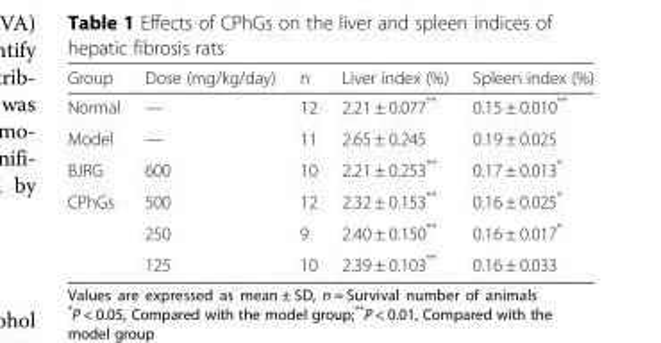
<table><thead><tr><td>Group</td><td>Dose (mg/kg/day)</td><td>n</td><td>Liver index (%)</td><td>Spleen index (%)</td></tr></thead><tbody><tr><td>Normal</td><td>—</td><td>12</td><td>2.21 ± 0.077**</td><td>0.15 ± 0.010**</td></tr><tr><td>Model</td><td>—</td><td>11</td><td>2.65 ± 0.245</td><td>0.19 ± 0.025</td></tr><tr><td>BJRG</td><td>600</td><td>10</td><td>2.21 ± 0.253**</td><td>0.17 ± 0.013*</td></tr><tr><td rowspan="3">CPhGs</td><td>500</td><td>12</td><td>2.32 ± 0.153**</td><td>0.16 ± 0.025*</td></tr><tr><td>250</td><td>9</td><td>2.40 ± 0.150**</td><td>0.16 ± 0.017*</td></tr><tr><td>125</td><td>10</td><td>2.39 ± 0.103**</td><td>0.16 ± 0.033</td></tr></tbody></table>